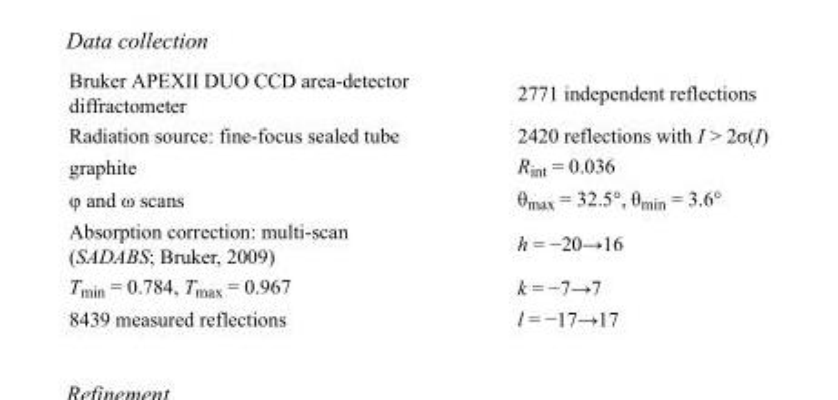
<table><tbody><tr><td>Bruker APEXII DUO CCD area-detector diffractometer</td><td>2771 independent reflections</td></tr><tr><td>Radiation source: fine-focus sealed tube</td><td>2420 reflections with I &gt; 2σ(I)</td></tr><tr><td>graphite</td><td>R<sub>int</sub> = 0.036</td></tr><tr><td>φ and ω scans</td><td>θ<sub>max</sub> = 32.5°, θ<sub>min</sub> = 3.6°</td></tr><tr><td>Absorption correction: multi-scan (SADABS; Bruker, 2009)</td><td>h = −20→16</td></tr><tr><td>T<sub>min</sub> = 0.784, T<sub>max</sub> = 0.967</td><td>k = −7→7</td></tr><tr><td>8439 measured reflections</td><td>l = −17→17</td></tr></tbody></table>